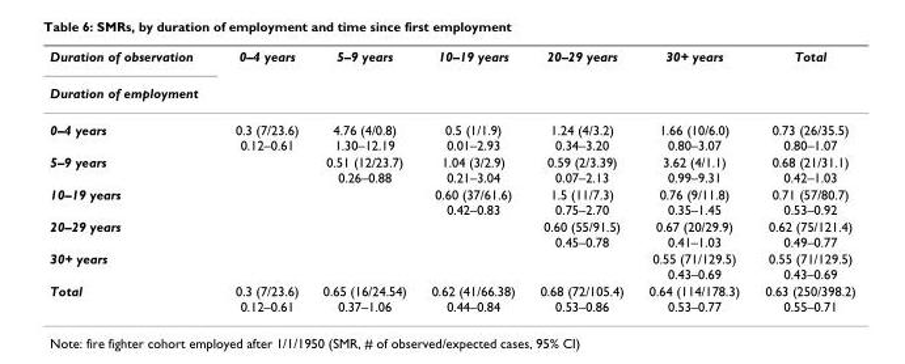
<table><thead><tr><td rowspan="2">Duration of observation Duration of employment</td><td rowspan="2">0–4 years</td><td rowspan="2">5–9 years</td><td rowspan="2">10–19 years</td><td rowspan="2">20–29 years</td><td rowspan="2">30+ years</td><td rowspan="2">Total</td></tr><tr></tr></thead><tbody><tr><td>0–4 years</td><td>0.3 (7/23.6) 0.12–0.61</td><td>4.76 (4/0.8) 1.30–12.19</td><td>0.5 (1/1.9) 0.01–2.93</td><td>1.24 (4/3.2) 0.34–3.20</td><td>1.66 (10/6.0) 0.80–3.07</td><td>0.73 (26/35.5) 0.80–1.07</td></tr><tr><td>5–9 years</td><td></td><td>0.51 (12/23.7) 0.26–0.88</td><td>1.04 (3/2.9) 0.21–3.04</td><td>0.59 (2/3.39) 0.07–2.13</td><td>3.62 (4/1.1) 0.99–9.31</td><td>0.68 (21/31.1) 0.42–1.03</td></tr><tr><td>10–19 years</td><td></td><td></td><td>0.60 (37/61.6) 0.42–0.83</td><td>1.5 (11/7.3) 0.75–2.70</td><td>0.76 (9/11.8) 0.35–1.45</td><td>0.71 (57/80.7) 0.53–0.92</td></tr><tr><td>20–29 years</td><td></td><td></td><td></td><td>0.60 (55/91.5) 0.45–0.78</td><td>0.67 (20/29.9) 0.41–1.03</td><td>0.62 (75/121.4) 0.49–0.77</td></tr><tr><td>30+ years</td><td></td><td></td><td></td><td></td><td>0.55 (71/129.5) 0.43–0.69</td><td>0.55 (71/129.5) 0.43–0.69</td></tr><tr><td>Total</td><td>0.3 (7/23.6) 0.12–0.61</td><td>0.65 (16/24.54) 0.37–1.06</td><td>0.62 (41/66.38) 0.44–0.84</td><td>0.68 (72/105.4) 0.53–0.86</td><td>0.64 (114/178.3) 0.53–0.77</td><td>0.63 (250/398.2) 0.55–0.71</td></tr></tbody></table>